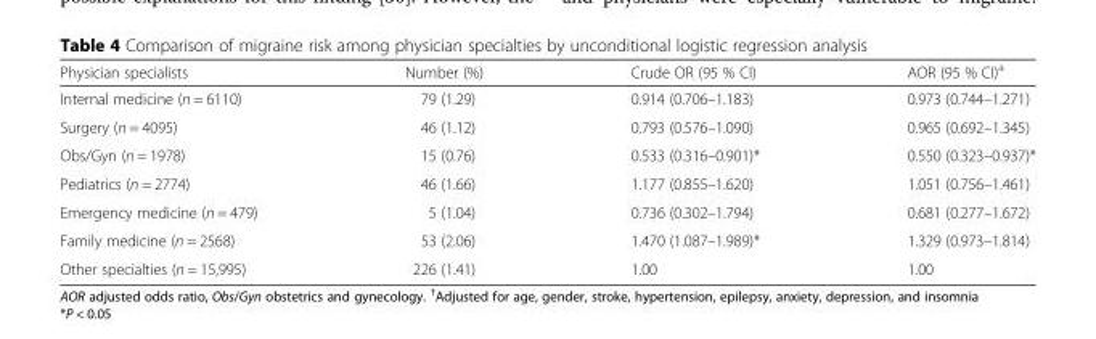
<table><thead><tr><td>Physician specialists</td><td>Number (%)</td><td>Crude OR (95 % CI)</td><td>AOR (95 % CI)<sup>a</sup></td></tr></thead><tbody><tr><td>Internal medicine (n = 6110)</td><td>79 (1.29)</td><td>0.914 (0.706–1.183)</td><td>0.973 (0.744–1.271)</td></tr><tr><td>Surgery (n = 4095)</td><td>46 (1.12)</td><td>0.793 (0.576–1.090)</td><td>0.965 (0.692–1.345)</td></tr><tr><td>Obs/Gyn (n = 1978)</td><td>15 (0.76)</td><td>0.533 (0.316–0.901)*</td><td>0.550 (0.323–0.937)*</td></tr><tr><td>Pediatrics (n = 2774)</td><td>46 (1.66)</td><td>1.177 (0.855–1.620)</td><td>1.051 (0.756–1.461)</td></tr><tr><td>Emergency medicine (n = 479)</td><td>5 (1.04)</td><td>0.736 (0.302–1.794)</td><td>0.681 (0.277–1.672)</td></tr><tr><td>Family medicine (n = 2568)</td><td>53 (2.06)</td><td>1.470 (1.087–1.989)*</td><td>1.329 (0.973–1.814)</td></tr><tr><td>Other specialties (n = 15,995)</td><td>226 (1.41)</td><td>1.00</td><td>1.00</td></tr></tbody></table>